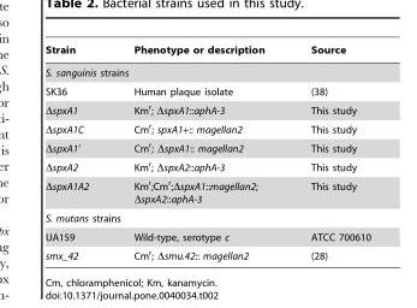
<table><thead><tr><td>Strain</td><td>Phenotype or description</td><td>Source</td></tr></thead><tbody><tr><td colspan="3">S. sanguinis strains</td></tr><tr><td>SK36</td><td>Human plaque isolate</td><td>(38)</td></tr><tr><td>ΔspxA1</td><td>Km<sup>r</sup>; ΔspxA1::aphA-3</td><td>This study</td></tr><tr><td>ΔspxA1C</td><td>Cm<sup>r</sup>; spxA1+:: magellan2</td><td>This study</td></tr><tr><td>ΔspxA1’</td><td>Cm<sup>r</sup>; ΔspxA1:: magellan2</td><td>This study</td></tr><tr><td>ΔspxA2</td><td>Km<sup>r</sup>; ΔspxA2::aphA-3</td><td>This study</td></tr><tr><td>ΔspxA1A2</td><td>Km<sup>r</sup>;Cm<sup>r</sup>;ΔspxA1::magellan2; ΔspxA2::aphA-3</td><td>This study</td></tr><tr><td colspan="3">S. mutans strains</td></tr><tr><td>UA159</td><td>Wild-type, serotype c</td><td>ATCC 700610</td></tr><tr><td>smx_42</td><td>Cm<sup>r</sup>; Δsmu.42:: magellan2</td><td>(28)</td></tr></tbody></table>